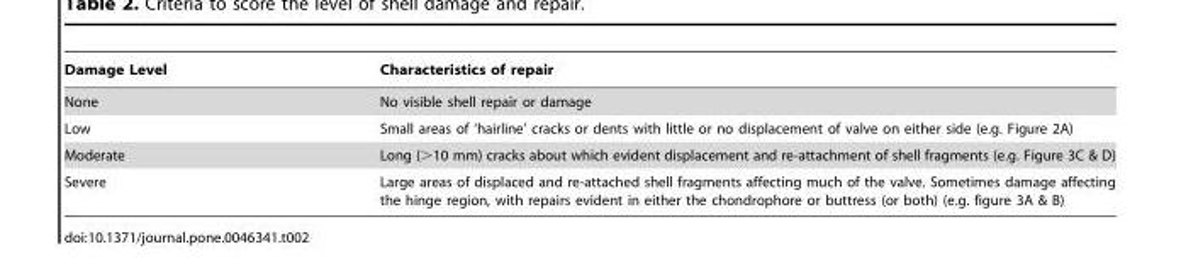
<table><thead><tr><td>Damage Level</td><td>Characteristics of repair</td></tr></thead><tbody><tr><td>None</td><td>No visible shell repair or damage</td></tr><tr><td>Low</td><td>Small areas of ‘hairline’ cracks or dents with little or no displacement of valve on either side (e.g. Figure 2A)</td></tr><tr><td>Moderate</td><td>Long (&gt;10 mm) cracks about which evident displacement and re-attachment of shell fragments (e.g. Figure 3C &amp; D)</td></tr><tr><td>Severe</td><td>Large areas of displaced and re-attached shell fragments affecting much of the valve. Sometimes damage affecting the hinge region, with repairs evident in either the chondrophore or buttress (or both) (e.g. figure 3A &amp; B)</td></tr></tbody></table>